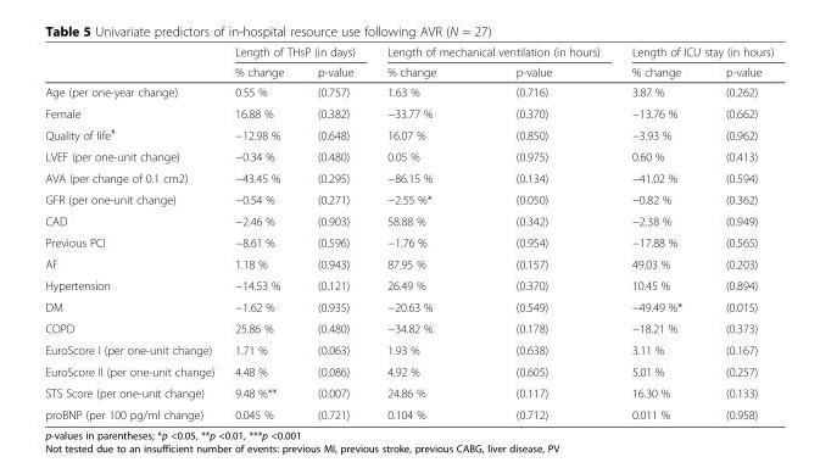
<table><thead><tr><td rowspan="2"></td><td colspan="2">Length of THsP (in days)</td><td colspan="2">Length of mechanical ventilation (in hours)</td><td colspan="2">Length of ICU stay (in hours)</td></tr><tr><td>% change</td><td>p-value</td><td>% change</td><td>p-value</td><td>% change</td><td>p-value</td></tr></thead><tbody><tr><td>Age (per one-year change)</td><td>0.55 %</td><td>(0.757)</td><td>1.63 %</td><td>(0.716)</td><td>3.87 %</td><td>(0.262)</td></tr><tr><td>Female</td><td>16.88 %</td><td>(0.382)</td><td>−33.77 %</td><td>(0.370)</td><td>−13.76 %</td><td>(0.662)</td></tr><tr><td>Quality of life<sup>#</sup></td><td>−12.98 %</td><td>(0.648)</td><td>16.07 %</td><td>(0.850)</td><td>−3.93 %</td><td>(0.962)</td></tr><tr><td>LVEF (per one-unit change)</td><td>−0.34 %</td><td>(0.480)</td><td>0.05 %</td><td>(0.975)</td><td>0.60 %</td><td>(0.413)</td></tr><tr><td>AVA (per change of 0.1 cm2)</td><td>−43.45 %</td><td>(0.295)</td><td>−86.15 %</td><td>(0.134)</td><td>−41.02 %</td><td>(0.594)</td></tr><tr><td>GFR (per one-unit change)</td><td>−0.54 %</td><td>(0.271)</td><td>−2.55 %*</td><td>(0.050)</td><td>−0.82 %</td><td>(0.362)</td></tr><tr><td>CAD</td><td>−2.46 %</td><td>(0.903)</td><td>58.88 %</td><td>(0.342)</td><td>−2.38 %</td><td>(0.949)</td></tr><tr><td>Previous PCI</td><td>−8.61 %</td><td>(0.596)</td><td>−1.76 %</td><td>(0.954)</td><td>−17.88 %</td><td>(0.565)</td></tr><tr><td>AF</td><td>1.18 %</td><td>(0.943)</td><td>87.95 %</td><td>(0.157)</td><td>49.03 %</td><td>(0.203)</td></tr><tr><td>Hypertension</td><td>−14.53 %</td><td>(0.121)</td><td>26.49 %</td><td>(0.370)</td><td>10.45 %</td><td>(0.894)</td></tr><tr><td>DM</td><td>−1.62 %</td><td>(0.935)</td><td>−20.63 %</td><td>(0.549)</td><td>−49.49 %*</td><td>(0.015)</td></tr><tr><td>COPD</td><td>25.86 %</td><td>(0.480)</td><td>−34.82 %</td><td>(0.178)</td><td>−18.21 %</td><td>(0.373)</td></tr><tr><td>EuroScore I (per one-unit change)</td><td>1.71 %</td><td>(0.063)</td><td>1.93 %</td><td>(0.638)</td><td>3.11 %</td><td>(0.167)</td></tr><tr><td>EuroScore II (per one-unit change)</td><td>4.48 %</td><td>(0.086)</td><td>4.92 %</td><td>(0.605)</td><td>5.01 %</td><td>(0.257)</td></tr><tr><td>STS Score (per one-unit change)</td><td>9.48 %**</td><td>(0.007)</td><td>24.86 %</td><td>(0.117)</td><td>16.30 %</td><td>(0.133)</td></tr><tr><td>proBNP (per 100 pg/ml change)</td><td>0.045 %</td><td>(0.721)</td><td>0.104 %</td><td>(0.712)</td><td>0.011 %</td><td>(0.958)</td></tr></tbody></table>